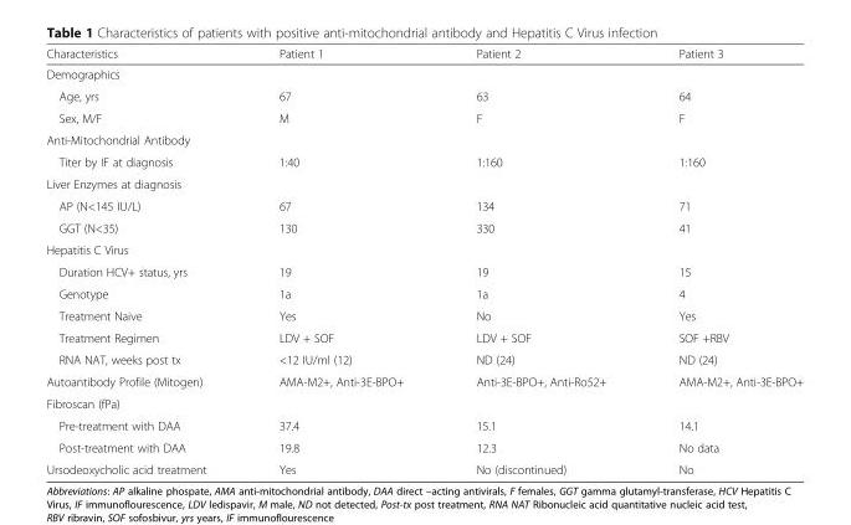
<table><thead><tr><td>Characteristics</td><td>Patient 1</td><td>Patient 2</td><td>Patient 3</td></tr></thead><tbody><tr><td colspan="4">Demographics</td></tr><tr><td>Age, yrs</td><td>67</td><td>63</td><td>64</td></tr><tr><td>Sex, M/F</td><td>M</td><td>F</td><td>F</td></tr><tr><td colspan="4">Anti-Mitochondrial Antibody</td></tr><tr><td>Titer by IF at diagnosis</td><td>1:40</td><td>1:160</td><td>1:160</td></tr><tr><td colspan="4">Liver Enzymes at diagnosis</td></tr><tr><td>AP (N&lt;145 IU/L)</td><td>67</td><td>134</td><td>71</td></tr><tr><td>GGT (N&lt;35)</td><td>130</td><td>330</td><td>41</td></tr><tr><td colspan="4">Hepatitis C Virus</td></tr><tr><td>Duration HCV+ status, yrs</td><td>19</td><td>19</td><td>15</td></tr><tr><td>Genotype</td><td>1a</td><td>1a</td><td>4</td></tr><tr><td>Treatment Naive</td><td>Yes</td><td>No</td><td>Yes</td></tr><tr><td>Treatment Regimen</td><td>LDV + SOF</td><td>LDV + SOF</td><td>SOF +RBV</td></tr><tr><td>RNA NAT, weeks post tx</td><td>&lt;12 IU/ml (12)</td><td>ND (24)</td><td>ND (24)</td></tr><tr><td>Autoantibody Profile (Mitogen)</td><td>AMA-M2+, Anti-3E-BPO+</td><td>Anti-3E-BPO+, Anti-Ro52+</td><td>AMA-M2+, Anti-3E-BPO+</td></tr><tr><td colspan="4">Fibroscan (fPa)</td></tr><tr><td>Pre-treatment with DAA</td><td>37.4</td><td>15.1</td><td>14.1</td></tr><tr><td>Post-treatment with DAA</td><td>19.8</td><td>12.3</td><td>No data</td></tr><tr><td>Ursodeoxycholic acid treatment</td><td>Yes</td><td>No (discontinued)</td><td>No</td></tr></tbody></table>